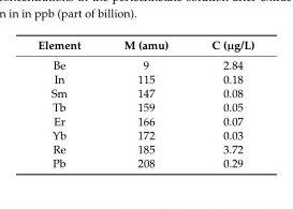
<table><thead><tr><td>Element</td><td>M (amu)</td><td>C (µg/L)</td></tr></thead><tbody><tr><td>Be</td><td>9</td><td>2.84</td></tr><tr><td>In</td><td>115</td><td>0.18</td></tr><tr><td>Sm</td><td>147</td><td>0.08</td></tr><tr><td>Tb</td><td>159</td><td>0.05</td></tr><tr><td>Er</td><td>166</td><td>0.07</td></tr><tr><td>Yb</td><td>172</td><td>0.03</td></tr><tr><td>Re</td><td>185</td><td>3.72</td></tr><tr><td>Pb</td><td>208</td><td>0.29</td></tr></tbody></table>